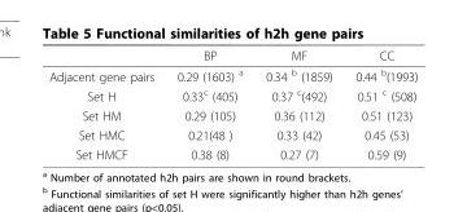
<table><thead><tr><td></td><td>BP</td><td>MF</td><td>CC</td></tr></thead><tbody><tr><td>Adjacent gene pairs</td><td>0.29 (1603) <sup>a</sup></td><td>0.34 <sup>b</sup> (1859)</td><td>0.44 <sup>b</sup>(1993)</td></tr><tr><td>Set H</td><td>0.33<sup>c</sup> (405)</td><td>0.37 <sup>c</sup>(492)</td><td>0.51 <sup>c</sup> (508)</td></tr><tr><td>Set HM</td><td>0.29 (105)</td><td>0.36 (112)</td><td>0.51 (123)</td></tr><tr><td>Set HMC</td><td>0.21(48 )</td><td>0.33 (42)</td><td>0.45 (53)</td></tr><tr><td>Set HMCF</td><td>0.38 (8)</td><td>0.27 (7)</td><td>0.59 (9)</td></tr></tbody></table>